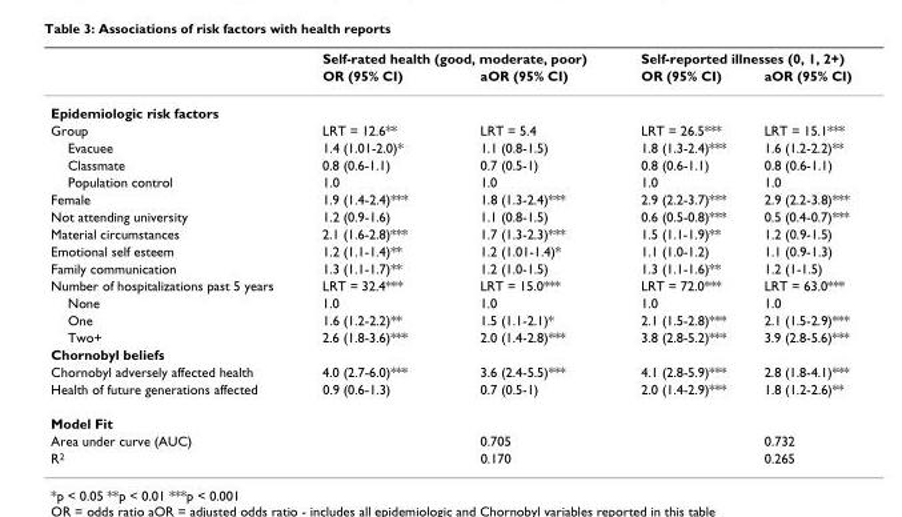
<table><thead><tr><td rowspan="2"></td><td colspan="2">Self-rated health (good, moderate, poor)</td><td colspan="2">Self-reported illnesses (0, 1, 2+)</td></tr><tr><td>OR (95% CI)</td><td>aOR (95% CI)</td><td>OR (95% CI)</td><td>aOR (95% CI)</td></tr></thead><tbody><tr><td colspan="5">Epidemiologic risk factors</td></tr><tr><td>Group</td><td>LRT = 12.6**</td><td>LRT = 5.4</td><td>LRT = 26.5***</td><td>LRT = 15.1***</td></tr><tr><td>Evacuee</td><td>1.4 (1.01-2.0)*</td><td>1.1 (0.8-1.5)</td><td>1.8 (1.3-2.4)***</td><td>1.6 (1.2-2.2)**</td></tr><tr><td>Classmate</td><td>0.8 (0.6-1.1)</td><td>0.7 (0.5-1)</td><td>0.8 (0.6-1.1)</td><td>0.8 (0.6-1.1)</td></tr><tr><td>Population control</td><td>1.0</td><td>1.0</td><td>1.0</td><td>1.0</td></tr><tr><td>Female</td><td>1.9 (1.4-2.4)***</td><td>1.8 (1.3-2.4)***</td><td>2.9 (2.2-3.7)***</td><td>2.9 (2.2-3.8)***</td></tr><tr><td>Not attending university</td><td>1.2 (0.9-1.6)</td><td>1.1 (0.8-1.5)</td><td>0.6 (0.5-0.8)***</td><td>0.5 (0.4-0.7)***</td></tr><tr><td>Material circumstances</td><td>2.1 (1.6-2.8)***</td><td>1.7 (1.3-2.3)***</td><td>1.5 (1.1-1.9)**</td><td>1.2 (0.9-1.5)</td></tr><tr><td>Emotional self esteem</td><td>1.2 (1.1-1.4)**</td><td>1.2 (1.01-1.4)*</td><td>1.1 (1.0-1.2)</td><td>1.1 (0.9-1.3)</td></tr><tr><td>Family communication</td><td>1.3 (1.1-1.7)**</td><td>1.2 (1.0-1.5)</td><td>1.3 (1.1-1.6)**</td><td>1.2 (1-1.5)</td></tr><tr><td>Number of hospitalizations past 5 years</td><td>LRT = 32.4***</td><td>LRT = 15.0***</td><td>LRT = 72.0***</td><td>LRT = 63.0***</td></tr><tr><td>None</td><td>1.0</td><td>1.0</td><td>1.0</td><td>1.0</td></tr><tr><td>One</td><td>1.6 (1.2-2.2)**</td><td>1.5 (1.1-2.1)*</td><td>2.1 (1.5-2.8)***</td><td>2.1 (1.5-2.9)***</td></tr><tr><td>Two+</td><td>2.6 (1.8-3.6)***</td><td>2.0 (1.4-2.8)***</td><td>3.8 (2.8-5.2)***</td><td>3.9 (2.8-5.6)***</td></tr><tr><td colspan="5">Chornobyl beliefs</td></tr><tr><td>Chornobyl adversely affected health</td><td>4.0 (2.7-6.0)***</td><td>3.6 (2.4-5.5)***</td><td>4.1 (2.8-5.9)***</td><td>2.8 (1.8-4.1)***</td></tr><tr><td>Health of future generations affected</td><td>0.9 (0.6-1.3)</td><td>0.7 (0.5-1)</td><td>2.0 (1.4-2.9)***</td><td>1.8 (1.2-2.6)**</td></tr><tr><td colspan="5">Model Fit</td></tr><tr><td>Area under curve (AUC)</td><td></td><td>0.705</td><td></td><td>0.732</td></tr><tr><td>R<sup>2</sup></td><td></td><td>0.170</td><td></td><td>0.265</td></tr></tbody></table>